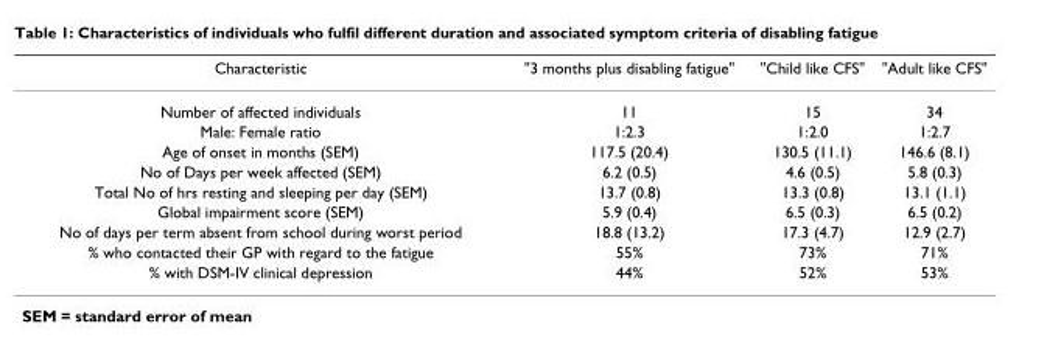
<table><thead><tr><td>Characteristic</td><td>&quot;3 months plus disabling fatigue&quot;</td><td>&quot;Child like CFS&quot;</td><td>&quot;Adult like CFS&quot;</td></tr></thead><tbody><tr><td>Number of affected individuals</td><td>11</td><td>15</td><td>34</td></tr><tr><td>Male: Female ratio</td><td>1:2.3</td><td>1:2.0</td><td>1:2.7</td></tr><tr><td>Age of onset in months (SEM)</td><td>117.5 (20.4)</td><td>130.5 (11.1)</td><td>146.6 (8.1)</td></tr><tr><td>No of Days per week affected (SEM)</td><td>6.2 (0.5)</td><td>4.6 (0.5)</td><td>5.8 (0.3)</td></tr><tr><td>Total No of hrs resting and sleeping per day (SEM)</td><td>13.7 (0.8)</td><td>13.3 (0.8)</td><td>13.1 (1.1)</td></tr><tr><td>Global impairment score (SEM)</td><td>5.9 (0.4)</td><td>6.5 (0.3)</td><td>6.5 (0.2)</td></tr><tr><td>No of days per term absent from school during worst period</td><td>18.8 (13.2)</td><td>17.3 (4.7)</td><td>12.9 (2.7)</td></tr><tr><td>% who contacted their GP with regard to the fatigue</td><td>55%</td><td>73%</td><td>71%</td></tr><tr><td>% with DSM-IV clinical depression</td><td>44%</td><td>52%</td><td>53%</td></tr></tbody></table>